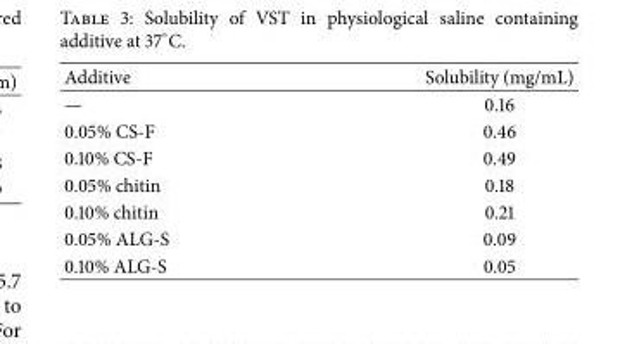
<table><thead><tr><td>Additive</td><td>Solubility (mg/mL)</td></tr></thead><tbody><tr><td>—</td><td>0.16</td></tr><tr><td>0.05% CS-F</td><td>0.46</td></tr><tr><td>0.10% CS-F</td><td>0.49</td></tr><tr><td>0.05% chitin</td><td>0.18</td></tr><tr><td>0.10% chitin</td><td>0.21</td></tr><tr><td>0.05% ALG-S</td><td>0.09</td></tr><tr><td>0.10% ALG-S</td><td>0.05</td></tr></tbody></table>